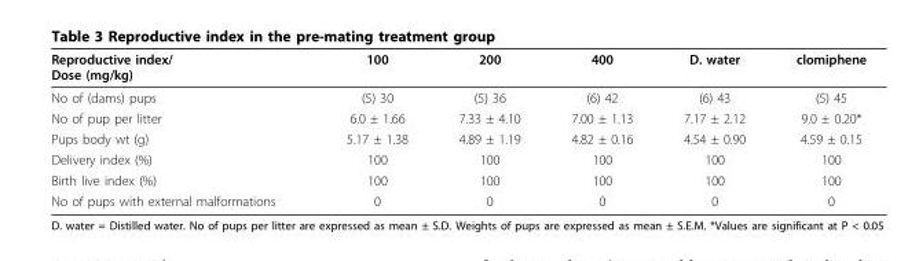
<table><thead><tr><td>Reproductive index/ Dose (mg/kg)</td><td>100</td><td>200</td><td>400</td><td>D. water</td><td>clomiphene</td></tr></thead><tbody><tr><td>No of (dams) pups</td><td>(5) 30</td><td>(5) 36</td><td>(6) 42</td><td>(6) 43</td><td>(5) 45</td></tr><tr><td>No of pup per litter</td><td>6.0 ± 1.66</td><td>7.33 ± 4.10</td><td>7.00 ± 1.13</td><td>7.17 ± 2.12</td><td>9.0 ± 0.20*</td></tr><tr><td>Pups body wt (g)</td><td>5.17 ± 1.38</td><td>4.89 ± 1.19</td><td>4.82 ± 0.16</td><td>4.54 ± 0.90</td><td>4.59 ± 0.15</td></tr><tr><td>Delivery index (%)</td><td>100</td><td>100</td><td>100</td><td>100</td><td>100</td></tr><tr><td>Birth live index (%)</td><td>100</td><td>100</td><td>100</td><td>100</td><td>100</td></tr><tr><td>No of pups with external malformations</td><td>0</td><td>0</td><td>0</td><td>0</td><td>0</td></tr></tbody></table>